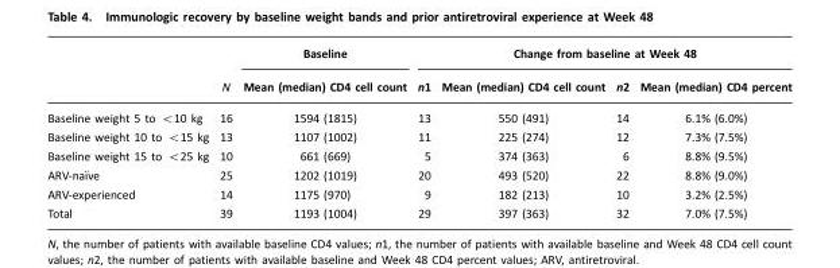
<table><thead><tr><td rowspan="2"></td><td rowspan="2">N</td><td rowspan="2">Baseline Mean (median) CD4 cell count</td><td colspan="4">Change from baseline at Week 48</td></tr><tr><td>n1</td><td>Mean (median) CD4 cell count</td><td>n2</td><td>Mean (median) CD4 percent</td></tr></thead><tbody><tr><td>Baseline weight 5 to &lt;10 kg</td><td>16</td><td>1594 (1815)</td><td>13</td><td>550 (491)</td><td>14</td><td>6.1% (6.0%)</td></tr><tr><td>Baseline weight 10 to &lt;15 kg</td><td>13</td><td>1107 (1002)</td><td>11</td><td>225 (274)</td><td>12</td><td>7.3% (7.5%)</td></tr><tr><td>Baseline weight 15 to &lt;25 kg</td><td>10</td><td>661 (669)</td><td>5</td><td>374 (363)</td><td>6</td><td>8.8% (9.5%)</td></tr><tr><td>ARV-naı¨ve</td><td>25</td><td>1202 (1019)</td><td>20</td><td>493 (520)</td><td>22</td><td>8.8% (9.0%)</td></tr><tr><td>ARV-experienced</td><td>14</td><td>1175 (970)</td><td>9</td><td>182 (213)</td><td>10</td><td>3.2% (2.5%)</td></tr><tr><td>Total</td><td>39</td><td>1193 (1004)</td><td>29</td><td>397 (363)</td><td>32</td><td>7.0% (7.5%)</td></tr></tbody></table>